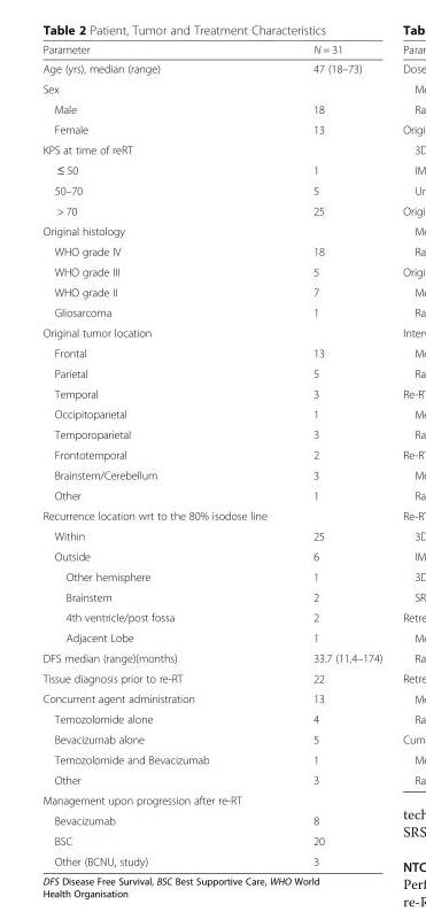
<table><thead><tr><td>Parameter</td><td>N = 31</td></tr></thead><tbody><tr><td>Age (yrs), median (range)</td><td>47 (18–73)</td></tr><tr><td colspan="2">Sex</td></tr><tr><td>Male</td><td>18</td></tr><tr><td>Female</td><td>13</td></tr><tr><td colspan="2">KPS at time of reRT</td></tr><tr><td>≤ 50</td><td>1</td></tr><tr><td>50–70</td><td>5</td></tr><tr><td>&gt; 70</td><td>25</td></tr><tr><td colspan="2">Original histology</td></tr><tr><td>WHO grade IV</td><td>18</td></tr><tr><td>WHO grade III</td><td>5</td></tr><tr><td>WHO grade II</td><td>7</td></tr><tr><td>Gliosarcoma</td><td>1</td></tr><tr><td colspan="2">Original tumor location</td></tr><tr><td>Frontal</td><td>13</td></tr><tr><td>Parietal</td><td>5</td></tr><tr><td>Temporal</td><td>3</td></tr><tr><td>Occipitoparietal</td><td>1</td></tr><tr><td>Temporoparietal</td><td>3</td></tr><tr><td>Frontotemporal</td><td>2</td></tr><tr><td>Brainstem/Cerebellum</td><td>3</td></tr><tr><td>Other</td><td>1</td></tr><tr><td colspan="2">Recurrence location wrt to the 80% isodose line</td></tr><tr><td>Within</td><td>25</td></tr><tr><td>Outside</td><td>6</td></tr><tr><td>Other hemisphere</td><td>1</td></tr><tr><td>Brainstem</td><td>2</td></tr><tr><td>4th ventricle/post fossa</td><td>2</td></tr><tr><td>Adjacent Lobe</td><td>1</td></tr><tr><td>DFS median (range)(months)</td><td>33.7 (11.4–174)</td></tr><tr><td>Tissue diagnosis prior to re-RT</td><td>22</td></tr><tr><td>Concurrent agent administration</td><td>13</td></tr><tr><td>Temozolomide alone</td><td>4</td></tr><tr><td>Bevacizumab alone</td><td>5</td></tr><tr><td>Temozolomide and Bevacizumab</td><td>1</td></tr><tr><td>Other</td><td>3</td></tr><tr><td colspan="2">Management upon progression after re-RT</td></tr><tr><td>Bevacizumab</td><td>8</td></tr><tr><td>BSC</td><td>20</td></tr><tr><td>Other (BCNU, study)</td><td>3</td></tr></tbody></table>